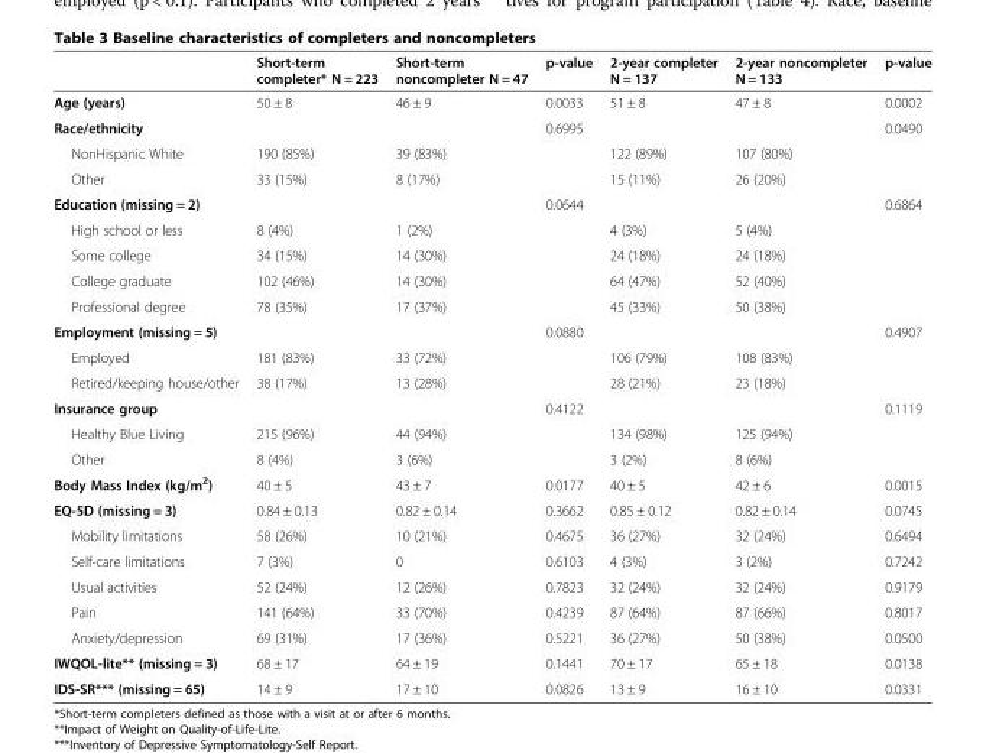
<table><thead><tr><td></td><td>Short-term completer* N = 223</td><td>Short-term noncompleter N = 47</td><td>p-value</td><td>2-year completer N = 137</td><td>2-year noncompleter N = 133</td><td>p-value</td></tr></thead><tbody><tr><td>Age (years)</td><td>50 ± 8</td><td>46 ± 9</td><td>0.0033</td><td>51 ± 8</td><td>47 ± 8</td><td>0.0002</td></tr><tr><td>Race/ethnicity</td><td></td><td></td><td>0.6995</td><td></td><td></td><td>0.0490</td></tr><tr><td>NonHispanic White</td><td>190 (85%)</td><td>39 (83%)</td><td></td><td>122 (89%)</td><td>107 (80%)</td><td></td></tr><tr><td>Other</td><td>33 (15%)</td><td>8 (17%)</td><td></td><td>15 (11%)</td><td>26 (20%)</td><td></td></tr><tr><td>Education (missing = 2)</td><td></td><td></td><td>0.0644</td><td></td><td></td><td>0.6864</td></tr><tr><td>High school or less</td><td>8 (4%)</td><td>1 (2%)</td><td></td><td>4 (3%)</td><td>5 (4%)</td><td></td></tr><tr><td>Some college</td><td>34 (15%)</td><td>14 (30%)</td><td></td><td>24 (18%)</td><td>24 (18%)</td><td></td></tr><tr><td>College graduate</td><td>102 (46%)</td><td>14 (30%)</td><td></td><td>64 (47%)</td><td>52 (40%)</td><td></td></tr><tr><td>Professional degree</td><td>78 (35%)</td><td>17 (37%)</td><td></td><td>45 (33%)</td><td>50 (38%)</td><td></td></tr><tr><td>Employment (missing = 5)</td><td></td><td></td><td>0.0880</td><td></td><td></td><td>0.4907</td></tr><tr><td>Employed</td><td>181 (83%)</td><td>33 (72%)</td><td></td><td>106 (79%)</td><td>108 (83%)</td><td></td></tr><tr><td>Retired/keeping house/other</td><td>38 (17%)</td><td>13 (28%)</td><td></td><td>28 (21%)</td><td>23 (18%)</td><td></td></tr><tr><td>Insurance group</td><td></td><td></td><td>0.4122</td><td></td><td></td><td>0.1119</td></tr><tr><td>Healthy Blue Living</td><td>215 (96%)</td><td>44 (94%)</td><td></td><td>134 (98%)</td><td>125 (94%)</td><td></td></tr><tr><td>Other</td><td>8 (4%)</td><td>3 (6%)</td><td></td><td>3 (2%)</td><td>8 (6%)</td><td></td></tr><tr><td>Body Mass Index (kg/m<sup>2</sup>)</td><td>40 ± 5</td><td>43 ± 7</td><td>0.0177</td><td>40 ± 5</td><td>42 ± 6</td><td>0.0015</td></tr><tr><td>EQ-5D (missing = 3)</td><td>0.84 ± 0.13</td><td>0.82 ± 0.14</td><td>0.3662</td><td>0.85 ± 0.12</td><td>0.82 ± 0.14</td><td>0.0745</td></tr><tr><td>Mobility limitations</td><td>58 (26%)</td><td>10 (21%)</td><td>0.4675</td><td>36 (27%)</td><td>32 (24%)</td><td>0.6494</td></tr><tr><td>Self-care limitations</td><td>7 (3%)</td><td>0</td><td>0.6103</td><td>4 (3%)</td><td>3 (2%)</td><td>0.7242</td></tr><tr><td>Usual activities</td><td>52 (24%)</td><td>12 (26%)</td><td>0.7823</td><td>32 (24%)</td><td>32 (24%)</td><td>0.9179</td></tr><tr><td>Pain</td><td>141 (64%)</td><td>33 (70%)</td><td>0.4239</td><td>87 (64%)</td><td>87 (66%)</td><td>0.8017</td></tr><tr><td>Anxiety/depression</td><td>69 (31%)</td><td>17 (36%)</td><td>0.5221</td><td>36 (27%)</td><td>50 (38%)</td><td>0.0500</td></tr><tr><td>IWQOL-lite** (missing = 3)</td><td>68 ± 17</td><td>64 ± 19</td><td>0.1441</td><td>70 ± 17</td><td>65 ± 18</td><td>0.0138</td></tr><tr><td>IDS-SR*** (missing = 65)</td><td>14 ± 9</td><td>17 ± 10</td><td>0.0826</td><td>13 ± 9</td><td>16 ± 10</td><td>0.0331</td></tr></tbody></table>